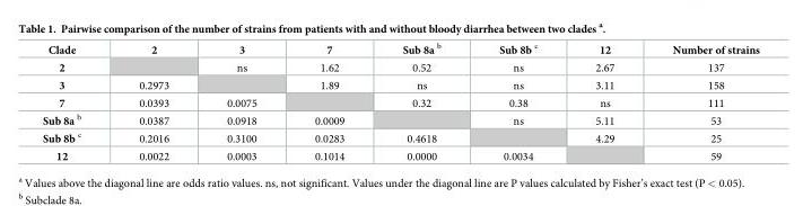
<table><tbody><tr><td>Clade</td><td>2</td><td>3</td><td>7</td><td>Sub 8a <sup>b</sup></td><td>Sub 8b <sup>c</sup></td><td>12</td><td>Number of strains</td></tr><tr><td>2</td><td></td><td>ns</td><td>1.62</td><td>0.52</td><td>ns</td><td>2.67</td><td>137</td></tr><tr><td>3</td><td>0.2973</td><td></td><td>1.89</td><td>ns</td><td>ns</td><td>3.11</td><td>158</td></tr><tr><td>7</td><td>0.0393</td><td>0.0075</td><td></td><td>0.32</td><td>0.38</td><td>ns</td><td>111</td></tr><tr><td>Sub 8a <sup>b</sup></td><td>0.0387</td><td>0.0918</td><td>0.0009</td><td></td><td>ns</td><td>5.11</td><td>53</td></tr><tr><td>Sub 8b <sup>c</sup></td><td>0.2016</td><td>0.3100</td><td>0.0283</td><td>0.4618</td><td></td><td>4.29</td><td>25</td></tr><tr><td>12</td><td>0.0022</td><td>0.0003</td><td>0.1014</td><td>0.0000</td><td>0.0034</td><td></td><td>59</td></tr></tbody></table>